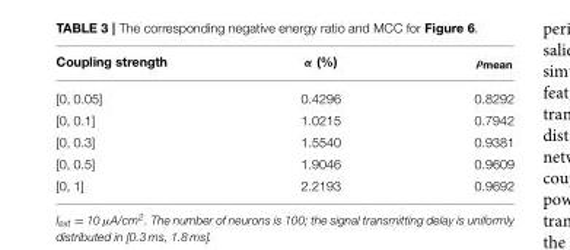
<table><thead><tr><td>Coupling strength</td><td>α (%)</td><td>ρ<sub>mean</sub></td></tr></thead><tbody><tr><td>[0, 0.05]</td><td>0.4296</td><td>0.8292</td></tr><tr><td>[0, 0.1]</td><td>1.0215</td><td>0.7942</td></tr><tr><td>[0, 0.3]</td><td>1.5540</td><td>0.9381</td></tr><tr><td>[0, 0.5]</td><td>1.9046</td><td>0.9609</td></tr><tr><td>[0, 1]</td><td>2.2193</td><td>0.9692</td></tr></tbody></table>